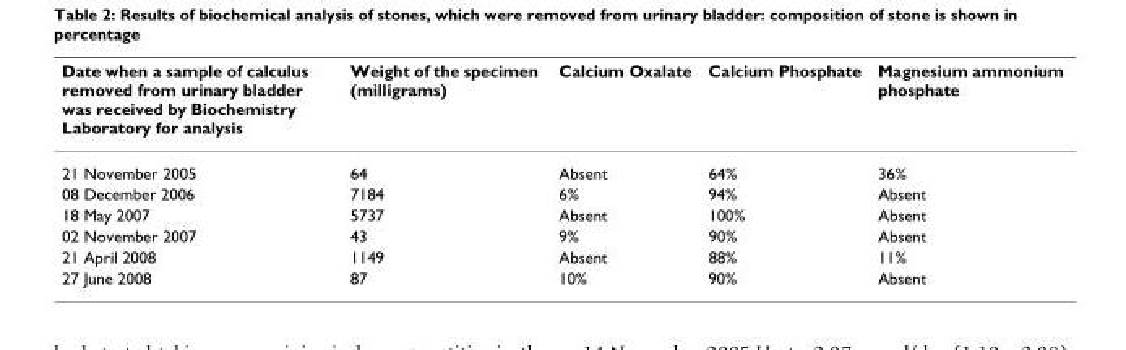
<table><thead><tr><td>Date when a sample of calculus removed from urinary bladder was received by Biochemistry Laboratory for analysis</td><td>Weight of the specimen (milligrams)</td><td>Calcium Oxalate</td><td>Calcium Phosphate</td><td>Magnesium ammonium phosphate</td></tr></thead><tbody><tr><td>21 November 2005</td><td>64</td><td>Absent</td><td>64%</td><td>36%</td></tr><tr><td>08 December 2006</td><td>7184</td><td>6%</td><td>94%</td><td>Absent</td></tr><tr><td>18 May 2007</td><td>5737</td><td>Absent</td><td>100%</td><td>Absent</td></tr><tr><td>02 November 2007</td><td>43</td><td>9%</td><td>90%</td><td>Absent</td></tr><tr><td>21 April 2008</td><td>1149</td><td>Absent</td><td>88%</td><td>11%</td></tr><tr><td>27 June 2008</td><td>87</td><td>10%</td><td>90%</td><td>Absent</td></tr></tbody></table>